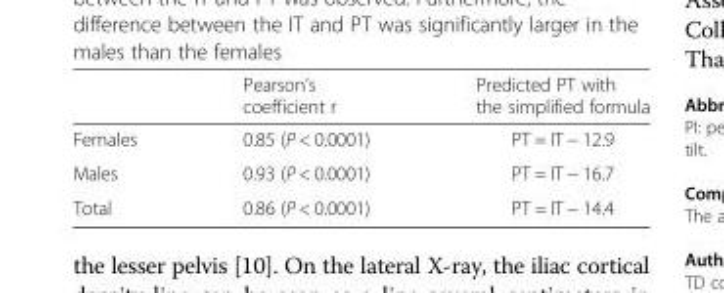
<table><thead><tr><td></td><td>Pearson’s coefficient r</td><td>Predicted PT with the simplified formula</td></tr></thead><tbody><tr><td>Females</td><td>0.85 (P &lt; 0.0001)</td><td>PT = IT − 12.9</td></tr><tr><td>Males</td><td>0.93 (P &lt; 0.0001)</td><td>PT = IT − 16.7</td></tr><tr><td>Total</td><td>0.86 (P &lt; 0.0001)</td><td>PT = IT − 14.4</td></tr></tbody></table>